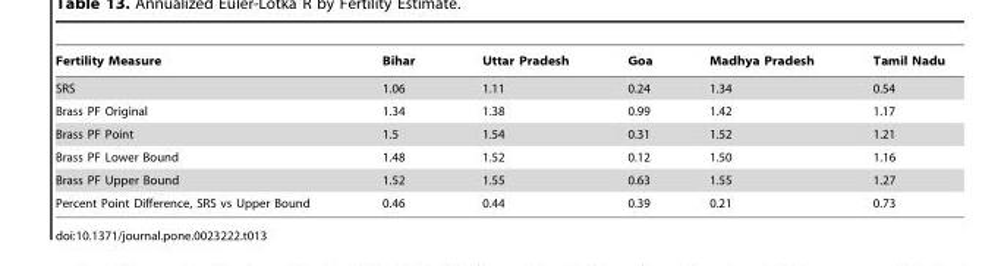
<table><thead><tr><td>Fertility Measure</td><td>Bihar</td><td>Uttar Pradesh</td><td>Goa</td><td>Madhya Pradesh</td><td>Tamil Nadu</td></tr></thead><tbody><tr><td>SRS</td><td>1.06</td><td>1.11</td><td>0.24</td><td>1.34</td><td>0.54</td></tr><tr><td>Brass PF Original</td><td>1.34</td><td>1.38</td><td>0.99</td><td>1.42</td><td>1.17</td></tr><tr><td>Brass PF Point</td><td>1.5</td><td>1.54</td><td>0.31</td><td>1.52</td><td>1.21</td></tr><tr><td>Brass PF Lower Bound</td><td>1.48</td><td>1.52</td><td>0.12</td><td>1.50</td><td>1.16</td></tr><tr><td>Brass PF Upper Bound</td><td>1.52</td><td>1.55</td><td>0.63</td><td>1.55</td><td>1.27</td></tr><tr><td>Percent Point Difference, SRS vs Upper Bound</td><td>0.46</td><td>0.44</td><td>0.39</td><td>0.21</td><td>0.73</td></tr></tbody></table>